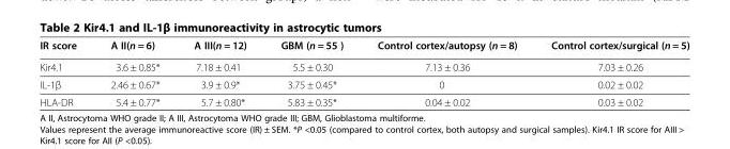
<table><thead><tr><td>IR score</td><td>A II(n = 6)</td><td>A III(n = 12)</td><td>GBM (n = 55 )</td><td>Control cortex/autopsy (n = 8)</td><td>Control cortex/surgical (n = 5)</td></tr></thead><tbody><tr><td>Kir4.1</td><td>3.6 ± 0.85*</td><td>7.18 ± 0.41</td><td>5.5 ± 0.30</td><td>7.13 ± 0.36</td><td>7.03 ± 0.26</td></tr><tr><td>IL-1β</td><td>2.46 ± 0.67*</td><td>3.9 ± 0.9*</td><td>3.75 ± 0.45*</td><td>0</td><td>0.02 ± 0.02</td></tr><tr><td>HLA-DR</td><td>5.4 ± 0.77*</td><td>5.7 ± 0.80*</td><td>5.83 ± 0.35*</td><td>0.04 ± 0.02</td><td>0.03 ± 0.02</td></tr></tbody></table>